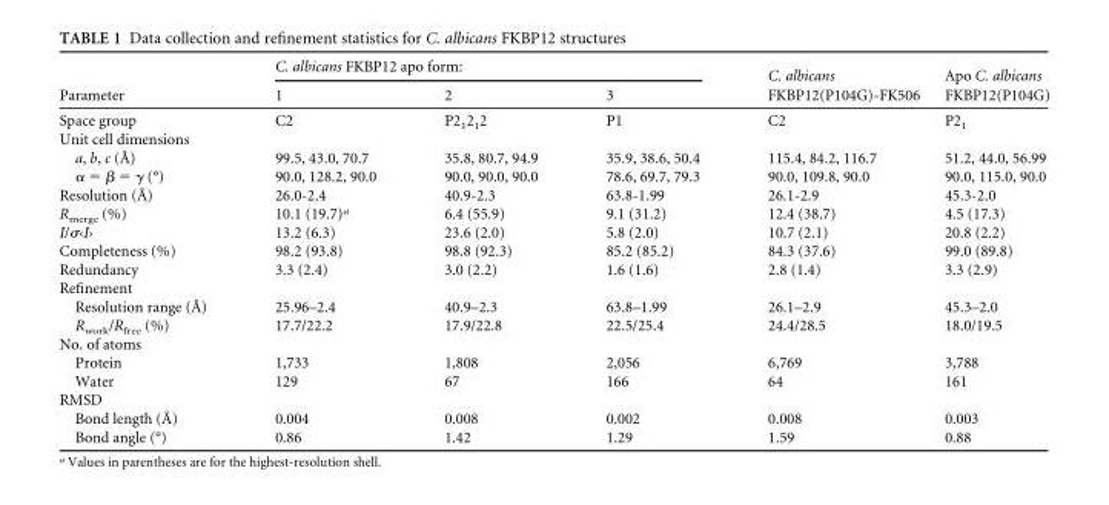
<table><thead><tr><td rowspan="2">Parameter</td><td colspan="3">C. albicans FKBP12 apo form:</td><td rowspan="2">C. albicans FKBP12(P104G)-FK506</td><td rowspan="2">Apo C. albicans FKBP12(P104G)</td></tr><tr><td>1</td><td>2</td><td>3</td></tr></thead><tbody><tr><td>Space group</td><td>C2</td><td>P2<sub>1</sub>2<sub>1</sub>2</td><td>P1</td><td>C2</td><td>P2<sub>1</sub></td></tr><tr><td colspan="6">Unit cell dimensions</td></tr><tr><td>a, b, c (Å)</td><td>99.5, 43.0, 70.7</td><td>35.8, 80.7, 94.9</td><td>35.9, 38.6, 50.4</td><td>115.4, 84.2, 116.7</td><td>51.2, 44.0, 56.99</td></tr><tr><td>α = β = γ (°)</td><td>90.0, 128.2, 90.0</td><td>90.0, 90.0, 90.0</td><td>78.6, 69.7, 79.3</td><td>90.0, 109.8, 90.0</td><td>90.0, 115.0, 90.0</td></tr><tr><td>Resolution (Å)</td><td>26.0-2.4</td><td>40.9-2.3</td><td>63.8-1.99</td><td>26.1-2.9</td><td>45.3-2.0</td></tr><tr><td>R<sub>merge</sub> (%)</td><td>10.1 (19.7)<sup>a</sup></td><td>6.4 (55.9)</td><td>9.1 (31.2)</td><td>12.4 (38.7)</td><td>4.5 (17.3)</td></tr><tr><td>I/σ‹I›</td><td>13.2 (6.3)</td><td>23.6 (2.0)</td><td>5.8 (2.0)</td><td>10.7 (2.1)</td><td>20.8 (2.2)</td></tr><tr><td>Completeness (%)</td><td>98.2 (93.8)</td><td>98.8 (92.3)</td><td>85.2 (85.2)</td><td>84.3 (37.6)</td><td>99.0 (89.8)</td></tr><tr><td>Redundancy</td><td>3.3 (2.4)</td><td>3.0 (2.2)</td><td>1.6 (1.6)</td><td>2.8 (1.4)</td><td>3.3 (2.9)</td></tr><tr><td colspan="6">Refinement</td></tr><tr><td>Resolution range (Å)</td><td>25.96–2.4</td><td>40.9–2.3</td><td>63.8–1.99</td><td>26.1–2.9</td><td>45.3–2.0</td></tr><tr><td>R<sub>work</sub>/R<sub>free</sub> (%)</td><td>17.7/22.2</td><td>17.9/22.8</td><td>22.5/25.4</td><td>24.4/28.5</td><td>18.0/19.5</td></tr><tr><td colspan="6">No. of atoms</td></tr><tr><td>Protein</td><td>1,733</td><td>1,808</td><td>2,056</td><td>6,769</td><td>3,788</td></tr><tr><td>Water</td><td>129</td><td>67</td><td>166</td><td>64</td><td>161</td></tr><tr><td colspan="6">RMSD</td></tr><tr><td>Bond length (Å)</td><td>0.004</td><td>0.008</td><td>0.002</td><td>0.008</td><td>0.003</td></tr><tr><td>Bond angle (°)</td><td>0.86</td><td>1.42</td><td>1.29</td><td>1.59</td><td>0.88</td></tr></tbody></table>